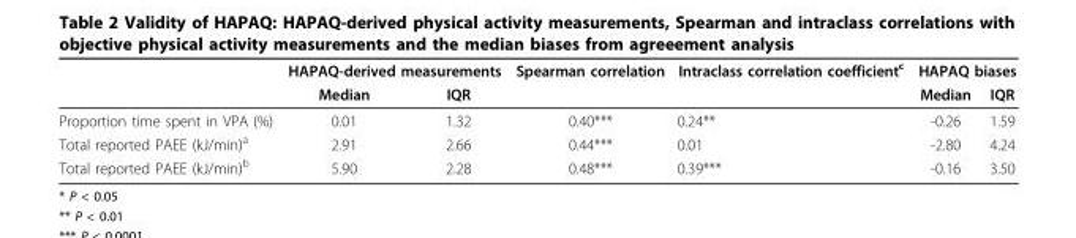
<table><thead><tr><td rowspan="2"></td><td colspan="2">HAPAQ-derived measurements</td><td rowspan="2">Spearman correlation</td><td rowspan="2">Intraclass correlation coefficient<sup>c</sup></td><td colspan="2">HAPAQ biases</td></tr><tr><td>Median</td><td>IQR</td><td>Median</td><td>IQR</td></tr></thead><tbody><tr><td>Proportion time spent in VPA (%)</td><td>0.01</td><td>1.32</td><td>0.40***</td><td>0.24**</td><td>-0.26</td><td>1.59</td></tr><tr><td>Total reported PAEE (kJ/min)<sup>a</sup></td><td>2.91</td><td>2.66</td><td>0.44***</td><td>0.01</td><td>-2.80</td><td>4.24</td></tr><tr><td>Total reported PAEE (kJ/min)<sup>b</sup></td><td>5.90</td><td>2.28</td><td>0.48***</td><td>0.39***</td><td>-0.16</td><td>3.50</td></tr></tbody></table>